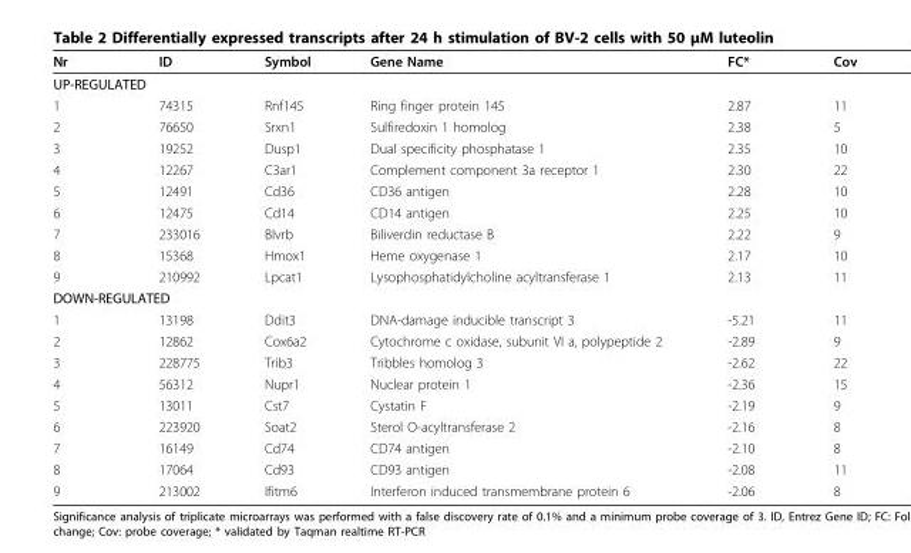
<table><thead><tr><td>Nr</td><td>ID</td><td>Symbol</td><td>Gene Name</td><td>FC*</td><td>Cov</td></tr></thead><tbody><tr><td colspan="6">UP-REGULATED</td></tr><tr><td>1</td><td>74315</td><td>Rnf145</td><td>Ring finger protein 145</td><td>2.87</td><td>11</td></tr><tr><td>2</td><td>76650</td><td>Srxn1</td><td>Sulfiredoxin 1 homolog</td><td>2.38</td><td>5</td></tr><tr><td>3</td><td>19252</td><td>Dusp1</td><td>Dual specificity phosphatase 1</td><td>2.35</td><td>10</td></tr><tr><td>4</td><td>12267</td><td>C3ar1</td><td>Complement component 3a receptor 1</td><td>2.30</td><td>22</td></tr><tr><td>5</td><td>12491</td><td>Cd36</td><td>CD36 antigen</td><td>2.28</td><td>10</td></tr><tr><td>6</td><td>12475</td><td>Cd14</td><td>CD14 antigen</td><td>2.25</td><td>10</td></tr><tr><td>7</td><td>233016</td><td>Blvrb</td><td>Biliverdin reductase B</td><td>2.22</td><td>9</td></tr><tr><td>8</td><td>15368</td><td>Hmox1</td><td>Heme oxygenase 1</td><td>2.17</td><td>10</td></tr><tr><td>9</td><td>210992</td><td>Lpcat1</td><td>Lysophosphatidylcholine acyltransferase 1</td><td>2.13</td><td>11</td></tr><tr><td colspan="6">DOWN-REGULATED</td></tr><tr><td>1</td><td>13198</td><td>Ddit3</td><td>DNA-damage inducible transcript 3</td><td>-5.21</td><td>11</td></tr><tr><td>2</td><td>12862</td><td>Cox6a2</td><td>Cytochrome c oxidase, subunit VI a, polypeptide 2</td><td>-2.89</td><td>9</td></tr><tr><td>3</td><td>228775</td><td>Trib3</td><td>Tribbles homolog 3</td><td>-2.62</td><td>22</td></tr><tr><td>4</td><td>56312</td><td>Nupr1</td><td>Nuclear protein 1</td><td>-2.36</td><td>15</td></tr><tr><td>5</td><td>13011</td><td>Cst7</td><td>Cystatin F</td><td>-2.19</td><td>9</td></tr><tr><td>6</td><td>223920</td><td>Soat2</td><td>Sterol O-acyltransferase 2</td><td>-2.16</td><td>8</td></tr><tr><td>7</td><td>16149</td><td>Cd74</td><td>CD74 antigen</td><td>-2.10</td><td>8</td></tr><tr><td>8</td><td>17064</td><td>Cd93</td><td>CD93 antigen</td><td>-2.08</td><td>11</td></tr><tr><td>9</td><td>213002</td><td>Ifitm6</td><td>Interferon induced transmembrane protein 6</td><td>-2.06</td><td>8</td></tr></tbody></table>